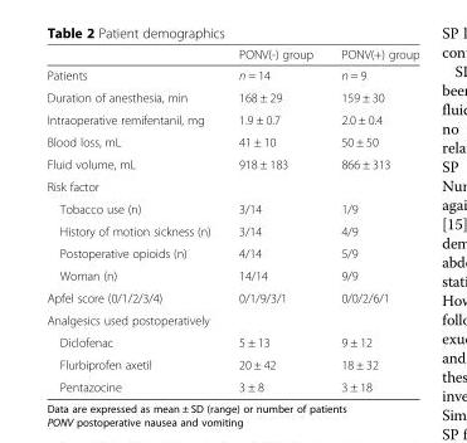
<table><thead><tr><td></td><td>PONV(-) group</td><td>PONV(+) group</td></tr></thead><tbody><tr><td>Patients</td><td>n = 14</td><td>n = 9</td></tr><tr><td>Duration of anesthesia, min</td><td>168 ± 29</td><td>159 ± 30</td></tr><tr><td>Intraoperative remifentanil, mg</td><td>1.9 ± 0.7</td><td>2.0 ± 0.4</td></tr><tr><td>Blood loss, mL</td><td>41 ± 10</td><td>50 ± 50</td></tr><tr><td>Fluid volume, mL</td><td>918 ± 183</td><td>866 ± 313</td></tr><tr><td colspan="3">Risk factor</td></tr><tr><td>Tobacco use (n)</td><td>3/14</td><td>1/9</td></tr><tr><td>History of motion sickness (n)</td><td>3/14</td><td>4/9</td></tr><tr><td>Postoperative opioids (n)</td><td>4/14</td><td>5/9</td></tr><tr><td>Woman (n)</td><td>14/14</td><td>9/9</td></tr><tr><td>Apfel score (0/1/2/3/4)</td><td>0/1/9/3/1</td><td>0/0/2/6/1</td></tr><tr><td colspan="3">Analgesics used postoperatively</td></tr><tr><td>Diclofenac</td><td>5 ± 13</td><td>9 ± 12</td></tr><tr><td>Flurbiprofen axetil</td><td>20 ± 42</td><td>18 ± 32</td></tr><tr><td>Pentazocine</td><td>3 ± 8</td><td>3 ± 18</td></tr></tbody></table>